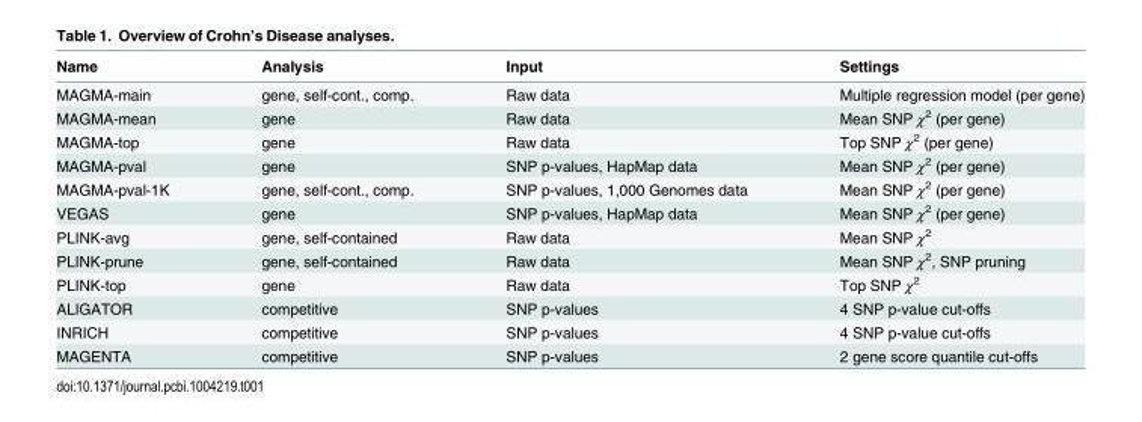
<table><thead><tr><td>Name</td><td>Analysis</td><td>Input</td><td>Settings</td></tr></thead><tbody><tr><td>MAGMA-main</td><td>gene, self-cont., comp.</td><td>Raw data</td><td>Multiple regression model (per gene)</td></tr><tr><td>MAGMA-mean</td><td>gene</td><td>Raw data</td><td>Mean SNP χ<sup>2</sup> (per gene)</td></tr><tr><td>MAGMA-top</td><td>gene</td><td>Raw data</td><td>Top SNP χ<sup>2</sup> (per gene)</td></tr><tr><td>MAGMA-pval</td><td>gene</td><td>SNP p-values, HapMap data</td><td>Mean SNP χ<sup>2</sup> (per gene)</td></tr><tr><td>MAGMA-pval-1K</td><td>gene, self-cont., comp.</td><td>SNP p-values, 1,000 Genomes data</td><td>Mean SNP χ<sup>2</sup> (per gene)</td></tr><tr><td>VEGAS</td><td>gene</td><td>SNP p-values, HapMap data</td><td>Mean SNP χ<sup>2</sup> (per gene)</td></tr><tr><td>PLINK-avg</td><td>gene, self-contained</td><td>Raw data</td><td>Mean SNP χ<sup>2</sup></td></tr><tr><td>PLINK-prune</td><td>gene, self-contained</td><td>Raw data</td><td>Mean SNP χ<sup>2</sup>, SNP pruning</td></tr><tr><td>PLINK-top</td><td>gene</td><td>Raw data</td><td>Top SNP χ<sup>2</sup></td></tr><tr><td>ALIGATOR</td><td>competitive</td><td>SNP p-values</td><td>4 SNP p-value cut-offs</td></tr><tr><td>INRICH</td><td>competitive</td><td>SNP p-values</td><td>4 SNP p-value cut-offs</td></tr><tr><td>MAGENTA</td><td>competitive</td><td>SNP p-values</td><td>2 gene score quantile cut-offs</td></tr></tbody></table>